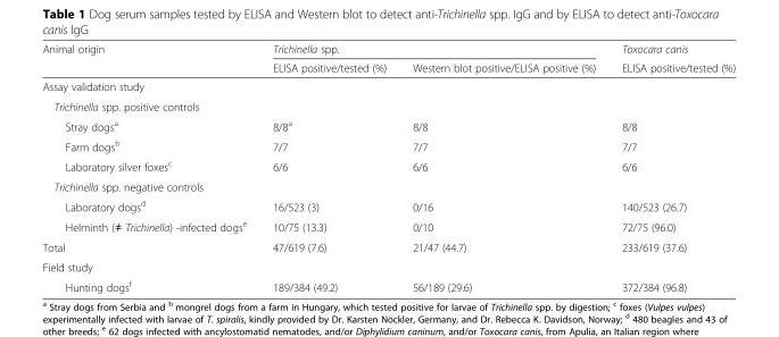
<table><thead><tr><td rowspan="2">Animal origin</td><td colspan="2">Trichinella spp.</td><td rowspan="2">Toxocara canis ELISA positive/tested (%)</td></tr><tr><td>ELISA positive/tested (%)</td><td>Western blot positive/ELISA positive (%)</td></tr></thead><tbody><tr><td colspan="4">Assay validation study</td></tr><tr><td colspan="4">Trichinella spp. positive controls</td></tr><tr><td>Stray dogs<sup>a</sup></td><td>8/8<sup>a</sup></td><td>8/8</td><td>8/8</td></tr><tr><td>Farm dogs<sup>b</sup></td><td>7/7</td><td>7/7</td><td>7/7</td></tr><tr><td>Laboratory silver foxes<sup>c</sup></td><td>6/6</td><td>6/6</td><td>6/6</td></tr><tr><td colspan="4">Trichinella spp. negative controls</td></tr><tr><td>Laboratory dogs<sup>d</sup></td><td>16/523 (3)</td><td>0/16</td><td>140/523 (26.7)</td></tr><tr><td>Helminth (≠ Trichinella) -infected dogs<sup>e</sup></td><td>10/75 (13.3)</td><td>0/10</td><td>72/75 (96.0)</td></tr><tr><td>Total</td><td>47/619 (7.6)</td><td>21/47 (44.7)</td><td>233/619 (37.6)</td></tr><tr><td colspan="4">Field study</td></tr><tr><td>Hunting dogs<sup>f</sup></td><td>189/384 (49.2)</td><td>56/189 (29.6)</td><td>372/384 (96.8)</td></tr></tbody></table>